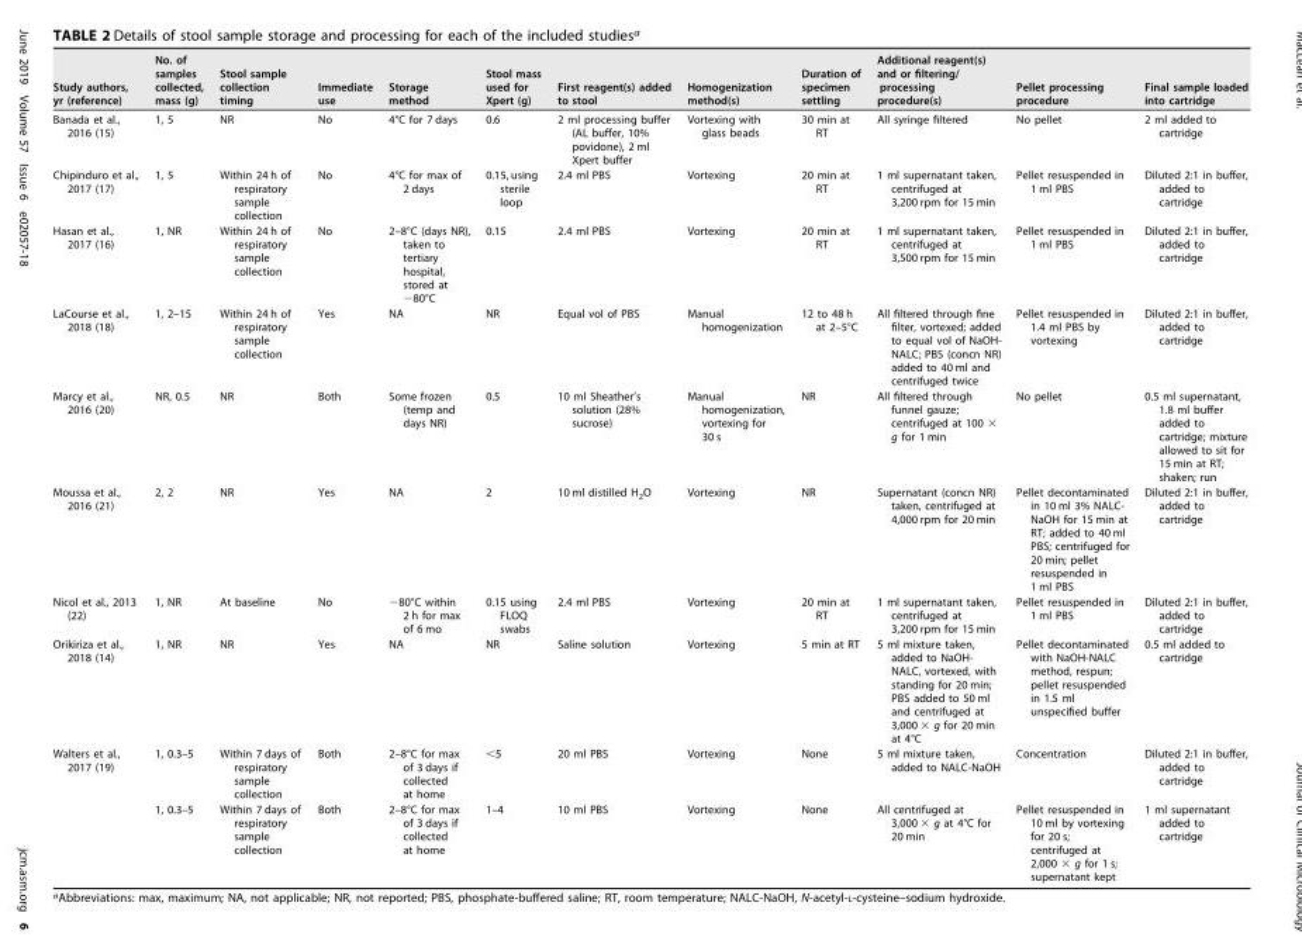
<table><thead><tr><td>Study authors, yr (reference)</td><td>No. of samples collected, mass (g)</td><td>Stool sample collection timing</td><td>Immediate use</td><td>Storage method</td><td>Stool mass used for Xpert (g)</td><td>First reagent(s) added to stool</td><td>Homogenization method(s)</td><td>Duration of specimen settling</td><td>Additional reagent(s) and or filtering/ processing procedure(s)</td><td>Pellet processing procedure</td><td>Final sample loaded into cartridge</td></tr></thead><tbody><tr><td>Banada et al., 2016 (15)</td><td>1, 5</td><td>NR</td><td>No</td><td>4°C for 7 days</td><td>0.6</td><td>2 ml processing buffer (AL buffer, 10% povidone), 2 ml Xpert buffer</td><td>Vortexing with glass beads</td><td>30 min at RT</td><td>All syringe filtered</td><td>No pellet</td><td>2 ml added to cartridge</td></tr><tr><td>Chipinduro et al., 2017 (17)</td><td>1, 5</td><td>Within 24 h of respiratory sample collection</td><td>No</td><td>4°C for max of 2 days</td><td>0.15, using sterile loop</td><td>2.4 ml PBS</td><td>Vortexing</td><td>20 min at RT</td><td>1 ml supernatant taken, centrifuged at 3,200 rpm for 15 min</td><td>Pellet resuspended in 1 ml PBS</td><td>Diluted 2:1 in buffer, added to cartridge</td></tr><tr><td>Hasan et al., 2017 (16)</td><td>1, NR</td><td>Within 24 h of respiratory sample collection</td><td>No</td><td>2–8°C (days NR), taken to tertiary hospital, stored at −80°C</td><td>0.15</td><td>2.4 ml PBS</td><td>Vortexing</td><td>20 min at RT</td><td>1 ml supernatant taken, centrifuged at 3,500 rpm for 15 min</td><td>Pellet resuspended in 1 ml PBS</td><td>Diluted 2:1 in buffer, added to cartridge</td></tr><tr><td>LaCourse et al., 2018 (18)</td><td>1, 2–15</td><td>Within 24 h of respiratory sample collection</td><td>Yes</td><td>NA</td><td>NR</td><td>Equal vol of PBS</td><td>Manual homogenization</td><td>12 to 48 h at 2–5°C</td><td>All filtered through fine filter, vortexed; added to equal vol of NaOH- NALC; PBS (concn NR) added to 40 ml and centrifuged twice</td><td>Pellet resuspended in 1.4 ml PBS by vortexing</td><td>Diluted 2:1 in buffer, added to cartridge</td></tr><tr><td>Marcy et al., 2016 (20)</td><td>NR, 0.5</td><td>NR</td><td>Both</td><td>Some frozen (temp and days NR)</td><td>0.5</td><td>10 ml Sheather’s solution (28% sucrose)</td><td>Manual homogenization, vortexing for 30 s</td><td>NR</td><td>All filtered through funnel gauze; centrifuged at 100 × g for 1 min</td><td>No pellet</td><td>0.5 ml supernatant, 1.8 ml buffer added to cartridge; mixture allowed to sit for 15 min at RT; shaken; run</td></tr><tr><td>Moussa et al., 2016 (21)</td><td>2, 2</td><td>NR</td><td>Yes</td><td>NA</td><td>2</td><td>10 ml distilled H<sub>2</sub>O</td><td>Vortexing</td><td>NR</td><td>Supernatant (concn NR) taken, centrifuged at 4,000 rpm for 20 min</td><td>Pellet decontaminated in 10 ml 3% NALC- NaOH for 15 min at RT; added to 40 ml PBS; centrifuged for 20 min; pellet resuspended in 1 ml PBS</td><td>Diluted 2:1 in buffer, added to cartridge</td></tr><tr><td>Nicol et al., 2013 (22)</td><td>1, NR</td><td>At baseline</td><td>No</td><td>−80°C within 2 h for max of 6 mo</td><td>0.15 using FLOQ swabs</td><td>2.4 ml PBS</td><td>Vortexing</td><td>20 min at RT</td><td>1 ml supernatant taken, centrifuged at 3,200 rpm for 15 min</td><td>Pellet resuspended in 1 ml PBS</td><td>Diluted 2:1 in buffer, added to cartridge</td></tr><tr><td>Orikiriza et al., 2018 (14)</td><td>1, NR</td><td>NR</td><td>Yes</td><td>NA</td><td>NR</td><td>Saline solution</td><td>Vortexing</td><td>5 min at RT</td><td>5 ml mixture taken, added to NaOH- NALC, vortexed, with standing for 20 min; PBS added to 50 ml and centrifuged at 3,000 × g for 20 min at 4°C</td><td>Pellet decontaminated with NaOH-NALC method, respun; pellet resuspended in 1.5 ml unspecified buffer</td><td>0.5 ml added to cartridge</td></tr><tr><td rowspan="2">Walters et al., 2017 (19)</td><td>1, 0.3–5</td><td>Within 7 days of respiratory sample collection</td><td>Both</td><td>2–8°C for max of 3 days if collected at home</td><td>&lt;5</td><td>20 ml PBS</td><td>Vortexing</td><td>None</td><td>5 ml mixture taken, added to NALC-NaOH</td><td>Concentration</td><td>Diluted 2:1 in buffer, added to cartridge</td></tr><tr><td>1, 0.3–5</td><td>Within 7 days of respiratory sample collection</td><td>Both</td><td>2–8°C for max of 3 days if collected at home</td><td>1–4</td><td>10 ml PBS</td><td>Vortexing</td><td>None</td><td>All centrifuged at 3,000 × g at 4°C for 20 min</td><td>Pellet resuspended in 10 ml by vortexing for 20 s; centrifuged at 2,000 × g for 1 s; supernatant kept</td><td>1 ml supernatant added to cartridge</td></tr></tbody></table>